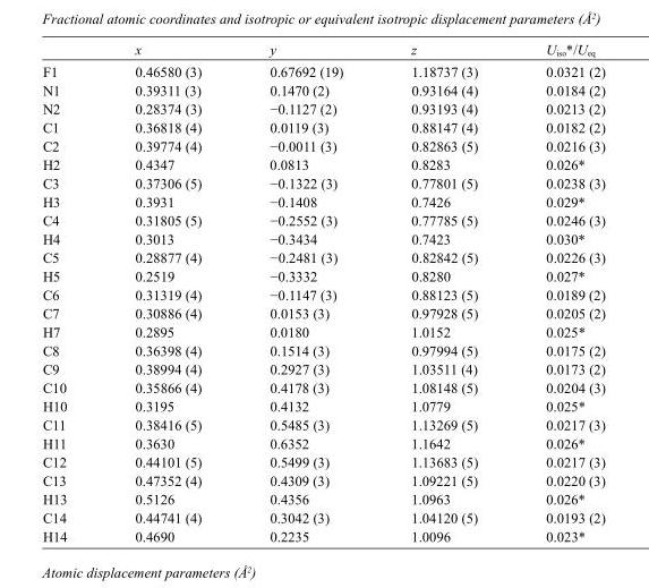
<table><thead><tr><td></td><td>x</td><td>y</td><td>z</td><td>U<sub>iso</sub>*/U<sub>eq</sub></td></tr></thead><tbody><tr><td>F1</td><td>0.46580 (3)</td><td>0.67692 (19)</td><td>1.18737 (3)</td><td>0.0321 (2)</td></tr><tr><td>N1</td><td>0.39311 (3)</td><td>0.1470 (2)</td><td>0.93164 (4)</td><td>0.0184 (2)</td></tr><tr><td>N2</td><td>0.28374 (3)</td><td>−0.1127 (2)</td><td>0.93193 (4)</td><td>0.0213 (2)</td></tr><tr><td>C1</td><td>0.36818 (4)</td><td>0.0119 (3)</td><td>0.88147 (4)</td><td>0.0182 (2)</td></tr><tr><td>C2</td><td>0.39774 (4)</td><td>−0.0011 (3)</td><td>0.82863 (5)</td><td>0.0216 (3)</td></tr><tr><td>H2</td><td>0.4347</td><td>0.0813</td><td>0.8283</td><td>0.026*</td></tr><tr><td>C3</td><td>0.37306 (5)</td><td>−0.1322 (3)</td><td>0.77801 (5)</td><td>0.0238 (3)</td></tr><tr><td>H3</td><td>0.3931</td><td>−0.1408</td><td>0.7426</td><td>0.029*</td></tr><tr><td>C4</td><td>0.31805 (5)</td><td>−0.2552 (3)</td><td>0.77785 (5)</td><td>0.0246 (3)</td></tr><tr><td>H4</td><td>0.3013</td><td>−0.3434</td><td>0.7423</td><td>0.030*</td></tr><tr><td>C5</td><td>0.28877 (4)</td><td>−0.2481 (3)</td><td>0.82842 (5)</td><td>0.0226 (3)</td></tr><tr><td>H5</td><td>0.2519</td><td>−0.3332</td><td>0.8280</td><td>0.027*</td></tr><tr><td>C6</td><td>0.31319 (4)</td><td>−0.1147 (3)</td><td>0.88123 (5)</td><td>0.0189 (2)</td></tr><tr><td>C7</td><td>0.30886 (4)</td><td>0.0153 (3)</td><td>0.97928 (5)</td><td>0.0205 (2)</td></tr><tr><td>H7</td><td>0.2895</td><td>0.0180</td><td>1.0152</td><td>0.025*</td></tr><tr><td>C8</td><td>0.36398 (4)</td><td>0.1514 (3)</td><td>0.97994 (5)</td><td>0.0175 (2)</td></tr><tr><td>C9</td><td>0.38994 (4)</td><td>0.2927 (3)</td><td>1.03511 (4)</td><td>0.0173 (2)</td></tr><tr><td>C10</td><td>0.35866 (4)</td><td>0.4178 (3)</td><td>1.08148 (5)</td><td>0.0204 (3)</td></tr><tr><td>H10</td><td>0.3195</td><td>0.4132</td><td>1.0779</td><td>0.025*</td></tr><tr><td>C11</td><td>0.38416 (5)</td><td>0.5485 (3)</td><td>1.13269 (5)</td><td>0.0217 (3)</td></tr><tr><td>H11</td><td>0.3630</td><td>0.6352</td><td>1.1642</td><td>0.026*</td></tr><tr><td>C12</td><td>0.44101 (5)</td><td>0.5499 (3)</td><td>1.13683 (5)</td><td>0.0217 (3)</td></tr><tr><td>C13</td><td>0.47352 (4)</td><td>0.4309 (3)</td><td>1.09221 (5)</td><td>0.0220 (3)</td></tr><tr><td>H13</td><td>0.5126</td><td>0.4356</td><td>1.0963</td><td>0.026*</td></tr><tr><td>C14</td><td>0.44741 (4)</td><td>0.3042 (3)</td><td>1.04120 (5)</td><td>0.0193 (2)</td></tr><tr><td>H14</td><td>0.4690</td><td>0.2235</td><td>1.0096</td><td>0.023*</td></tr></tbody></table>